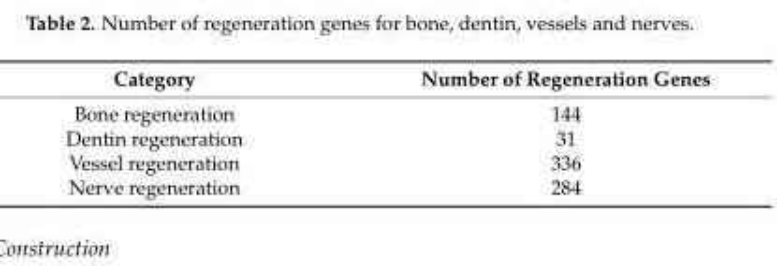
<table><thead><tr><td>Category</td><td>Number of Regeneration Genes</td></tr></thead><tbody><tr><td>Bone regeneration</td><td>144</td></tr><tr><td>Dentin regeneration</td><td>31</td></tr><tr><td>Vessel regeneration</td><td>336</td></tr><tr><td>Nerve regeneration</td><td>284</td></tr></tbody></table>